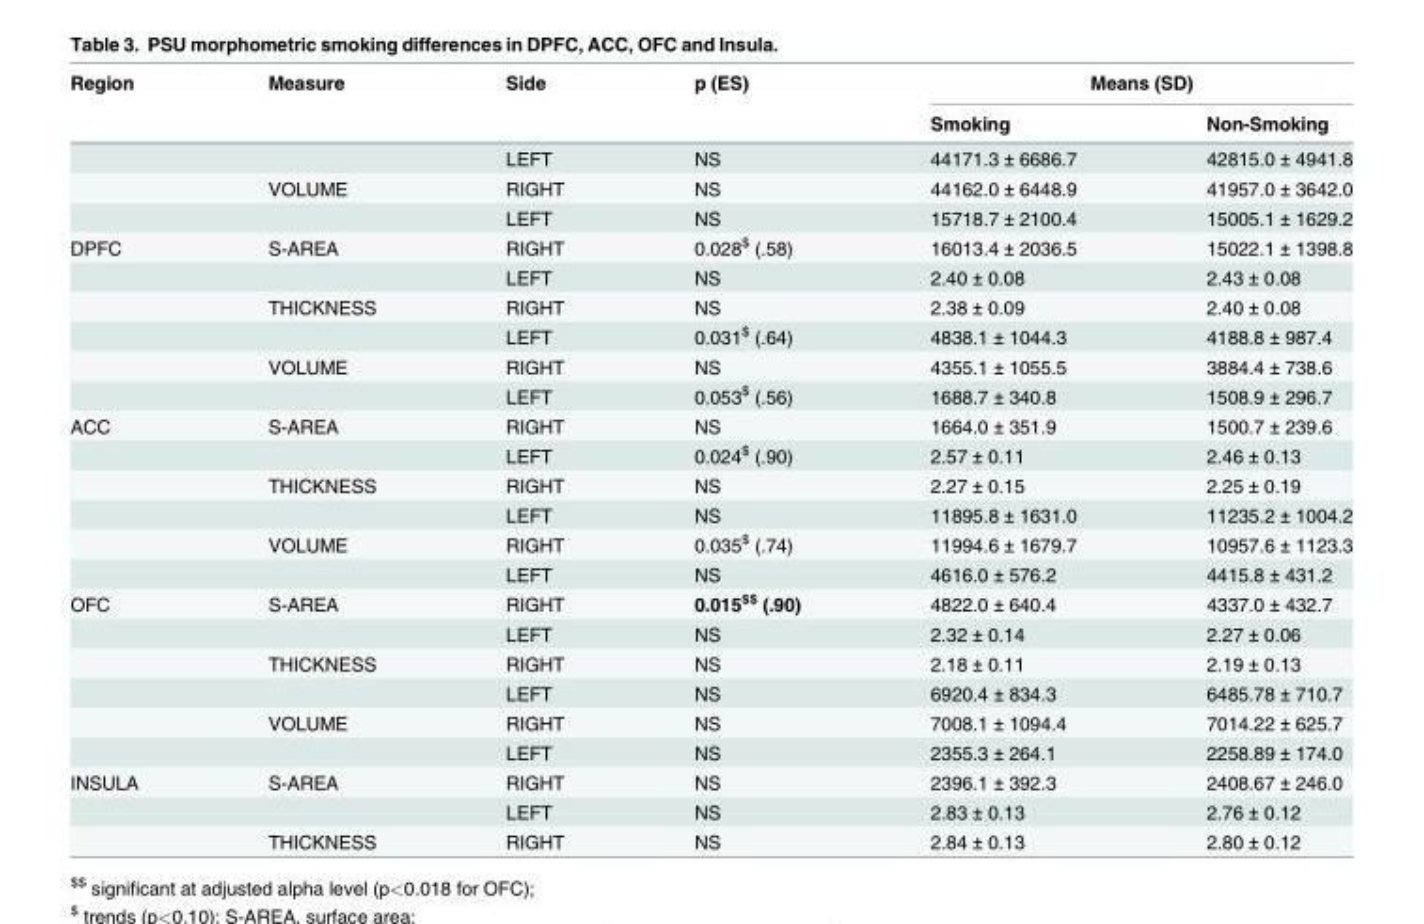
<table><thead><tr><td rowspan="2">Region</td><td rowspan="2">Measure</td><td rowspan="2">Side</td><td rowspan="2">p (ES)</td><td colspan="2">Means (SD)</td></tr><tr><td>Smoking</td><td>Non-Smoking</td></tr></thead><tbody><tr><td></td><td></td><td>LEFT</td><td>NS</td><td>44171.3 ± 6686.7</td><td>42815.0 ± 4941.8</td></tr><tr><td></td><td>VOLUME</td><td>RIGHT</td><td>NS</td><td>44162.0 ± 6448.9</td><td>41957.0 ± 3642.0</td></tr><tr><td></td><td></td><td>LEFT</td><td>NS</td><td>15718.7 ± 2100.4</td><td>15005.1 ± 1629.2</td></tr><tr><td rowspan="6">DPFC</td><td>S-AREA</td><td>RIGHT</td><td>0.028<sup>$</sup> (.58)</td><td>16013.4 ± 2036.5</td><td>15022.1 ± 1398.8</td></tr><tr><td></td><td>LEFT</td><td>NS</td><td>2.40 ± 0.08</td><td>2.43 ± 0.08</td></tr><tr><td>THICKNESS</td><td>RIGHT</td><td>NS</td><td>2.38 ± 0.09</td><td>2.40 ± 0.08</td></tr><tr><td></td><td>LEFT</td><td>0.031<sup>$</sup> (.64)</td><td>4838.1 ± 1044.3</td><td>4188.8 ± 987.4</td></tr><tr><td>VOLUME</td><td>RIGHT</td><td>NS</td><td>4355.1 ± 1055.5</td><td>3884.4 ± 738.6</td></tr><tr><td></td><td>LEFT</td><td>0.053<sup>$</sup> (.56)</td><td>1688.7 ± 340.8</td><td>1508.9 ± 296.7</td></tr><tr><td rowspan="6">ACC</td><td>S-AREA</td><td>RIGHT</td><td>NS</td><td>1664.0 ± 351.9</td><td>1500.7 ± 239.6</td></tr><tr><td></td><td>LEFT</td><td>0.024<sup>$</sup> (.90)</td><td>2.57 ± 0.11</td><td>2.46 ± 0.13</td></tr><tr><td>THICKNESS</td><td>RIGHT</td><td>NS</td><td>2.27 ± 0.15</td><td>2.25 ± 0.19</td></tr><tr><td></td><td>LEFT</td><td>NS</td><td>11895.8 ± 1631.0</td><td>11235.2 ± 1004.2</td></tr><tr><td>VOLUME</td><td>RIGHT</td><td>0.035<sup>$</sup> (.74)</td><td>11994.6 ± 1679.7</td><td>10957.6 ± 1123.3</td></tr><tr><td></td><td>LEFT</td><td>NS</td><td>4616.0 ± 576.2</td><td>4415.8 ± 431.2</td></tr><tr><td rowspan="6">OFC</td><td>S-AREA</td><td>RIGHT</td><td>0.015<sup>$$</sup> (.90)</td><td>4822.0 ± 640.4</td><td>4337.0 ± 432.7</td></tr><tr><td></td><td>LEFT</td><td>NS</td><td>2.32 ± 0.14</td><td>2.27 ± 0.06</td></tr><tr><td>THICKNESS</td><td>RIGHT</td><td>NS</td><td>2.18 ± 0.11</td><td>2.19 ± 0.13</td></tr><tr><td></td><td>LEFT</td><td>NS</td><td>6920.4 ± 834.3</td><td>6485.78 ± 710.7</td></tr><tr><td>VOLUME</td><td>RIGHT</td><td>NS</td><td>7008.1 ± 1094.4</td><td>7014.22 ± 625.7</td></tr><tr><td></td><td>LEFT</td><td>NS</td><td>2355.3 ± 264.1</td><td>2258.89 ± 174.0</td></tr><tr><td rowspan="3">INSULA</td><td>S-AREA</td><td>RIGHT</td><td>NS</td><td>2396.1 ± 392.3</td><td>2408.67 ± 246.0</td></tr><tr><td></td><td>LEFT</td><td>NS</td><td>2.83 ± 0.13</td><td>2.76 ± 0.12</td></tr><tr><td>THICKNESS</td><td>RIGHT</td><td>NS</td><td>2.84 ± 0.13</td><td>2.80 ± 0.12</td></tr></tbody></table>